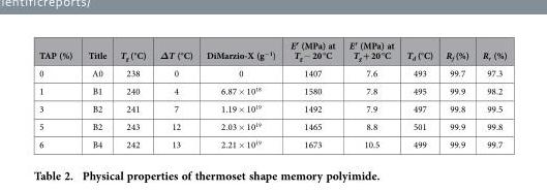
<table><thead><tr><td>TAP (%)</td><td>Title</td><td>T<sub>g</sub> (°C)</td><td>ΔT (°C)</td><td>DiMarzio-X (g<sup>−1</sup>)</td><td>E′ (MPa) at T<sub>g</sub> − 20 °C</td><td>E′ (MPa) at T<sub>g</sub> + 20 °C</td><td>T<sub>d</sub> (°C)</td><td>R<sub>f</sub> (%)</td><td>R<sub>r</sub> (%)</td></tr></thead><tbody><tr><td>0</td><td>A0</td><td>238</td><td>0</td><td>0</td><td>1407</td><td>7.6</td><td>493</td><td>99.7</td><td>97.3</td></tr><tr><td>1</td><td>B1</td><td>240</td><td>4</td><td>6.87 × 10<sup>18</sup></td><td>1580</td><td>7.8</td><td>495</td><td>99.9</td><td>98.2</td></tr><tr><td>3</td><td>B2</td><td>241</td><td>7</td><td>1.19 × 10<sup>19</sup></td><td>1492</td><td>7.9</td><td>497</td><td>99.8</td><td>99.5</td></tr><tr><td>5</td><td>B2</td><td>243</td><td>12</td><td>2.03 × 10<sup>19</sup></td><td>1465</td><td>8.8</td><td>501</td><td>99.9</td><td>99.8</td></tr><tr><td>6</td><td>B4</td><td>242</td><td>13</td><td>2.21 × 10<sup>19</sup></td><td>1673</td><td>10.5</td><td>499</td><td>99.9</td><td>99.7</td></tr></tbody></table>